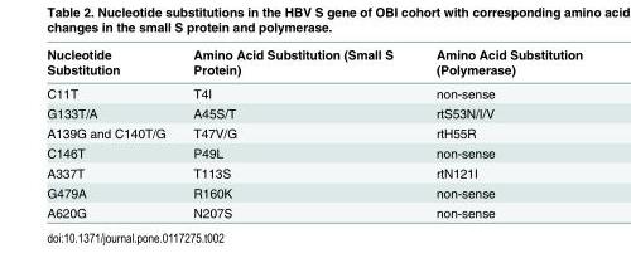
<table><thead><tr><td>Nucleotide Substitution</td><td>Amino Acid Substitution (Small S Protein)</td><td>Amino Acid Substitution (Polymerase)</td></tr></thead><tbody><tr><td>C11T</td><td>T4I</td><td>non-sense</td></tr><tr><td>G133T/A</td><td>A45S/T</td><td>rtS53N/I/V</td></tr><tr><td>A139G and C140T/G</td><td>T47V/G</td><td>rtH55R</td></tr><tr><td>C146T</td><td>P49L</td><td>non-sense</td></tr><tr><td>A337T</td><td>T113S</td><td>rtN121I</td></tr><tr><td>G479A</td><td>R160K</td><td>non-sense</td></tr><tr><td>A620G</td><td>N207S</td><td>non-sense</td></tr></tbody></table>